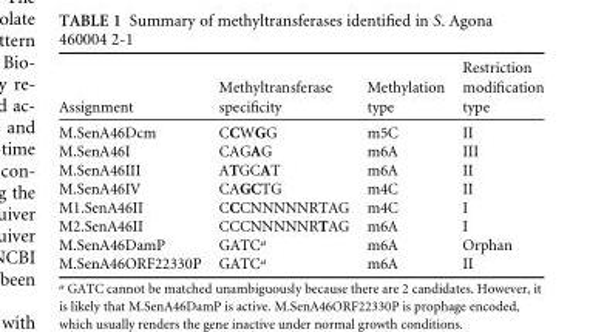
<table><thead><tr><td>Assignment</td><td>Methyltransferase specificity</td><td>Methylation type</td><td>Restriction modification type</td></tr></thead><tbody><tr><td>M.SenA46Dcm</td><td>CCWGG</td><td>m5C</td><td>II</td></tr><tr><td>M.SenA46I</td><td>CAGAG</td><td>m6A</td><td>III</td></tr><tr><td>M.SenA46III</td><td>ATGCAT</td><td>m6A</td><td>II</td></tr><tr><td>M.SenA46IV</td><td>CAGCTG</td><td>m4C</td><td>II</td></tr><tr><td>M1.SenA46II</td><td>CCCNNNNNRTAG</td><td>m4C</td><td>I</td></tr><tr><td>M2.SenA46II</td><td>CCCNNNNNRTAG</td><td>m6A</td><td>I</td></tr><tr><td>M.SenA46DamP</td><td>GATC<sup>a</sup></td><td>m6A</td><td>Orphan</td></tr><tr><td>M.SenA46ORF22330P</td><td>GATC<sup>a</sup></td><td>m6A</td><td>II</td></tr></tbody></table>